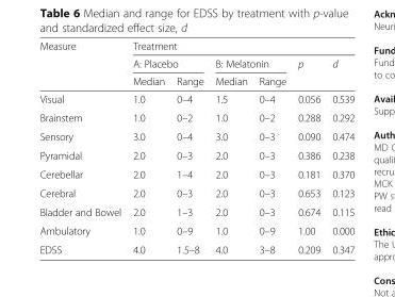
<table><thead><tr><td rowspan="3">Measure</td><td colspan="6">Treatment</td></tr><tr><td colspan="2">A: Placebo</td><td colspan="2">B: Melatonin</td><td rowspan="2">p</td><td rowspan="2">d</td></tr><tr><td>Median</td><td>Range</td><td>Median</td><td>Range</td></tr></thead><tbody><tr><td>Visual</td><td>1.0</td><td>0–4</td><td>1.5</td><td>0–4</td><td>0.056</td><td>0.539</td></tr><tr><td>Brainstem</td><td>1.0</td><td>0–2</td><td>1.0</td><td>0–2</td><td>0.288</td><td>0.292</td></tr><tr><td>Sensory</td><td>3.0</td><td>0–4</td><td>3.0</td><td>0–3</td><td>0.090</td><td>0.474</td></tr><tr><td>Pyramidal</td><td>2.0</td><td>0–3</td><td>2.0</td><td>0–3</td><td>0.386</td><td>0.238</td></tr><tr><td>Cerebellar</td><td>2.0</td><td>1–4</td><td>2.0</td><td>0–3</td><td>0.181</td><td>0.370</td></tr><tr><td>Cerebral</td><td>2.0</td><td>0–3</td><td>2.0</td><td>0–3</td><td>0.653</td><td>0.123</td></tr><tr><td>Bladder and Bowel</td><td>2.0</td><td>1–3</td><td>2.0</td><td>0–3</td><td>0.674</td><td>0.115</td></tr><tr><td>Ambulatory</td><td>1.0</td><td>0–9</td><td>1.0</td><td>0–9</td><td>1.00</td><td>0.000</td></tr><tr><td>EDSS</td><td>4.0</td><td>1.5–8</td><td>4.0</td><td>3–8</td><td>0.209</td><td>0.347</td></tr></tbody></table>